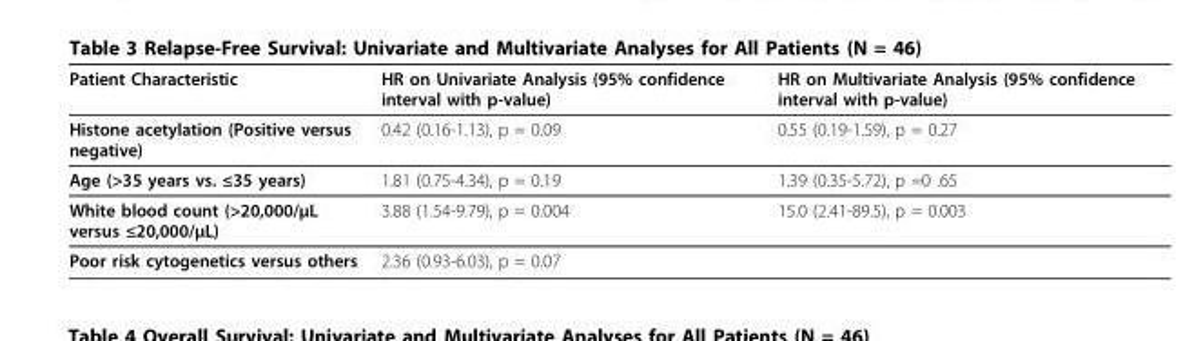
<table><thead><tr><td>Patient Characteristic</td><td>HR on Univariate Analysis (95% confidence interval with p-value)</td><td>HR on Multivariate Analysis (95% confidence interval with p-value)</td></tr></thead><tbody><tr><td>Histone acetylation (Positive versus negative)</td><td>0.42 (0.16-1.13), p = 0.09</td><td>0.55 (0.19-1.59), p = 0.27</td></tr><tr><td>Age (&gt;35 years vs. ≤35 years)</td><td>1.81 (0.75-4.34), p = 0.19</td><td>1.39 (0.35-5.72), p =0 .65</td></tr><tr><td>White blood count (&gt;20,000/μL versus ≤20,000/μL)</td><td>3.88 (1.54-9.79), p = 0.004</td><td>15.0 (2.41-89.5), p = 0.003</td></tr><tr><td>Poor risk cytogenetics versus others</td><td>2.36 (0.93-6.03), p = 0.07</td><td></td></tr></tbody></table>